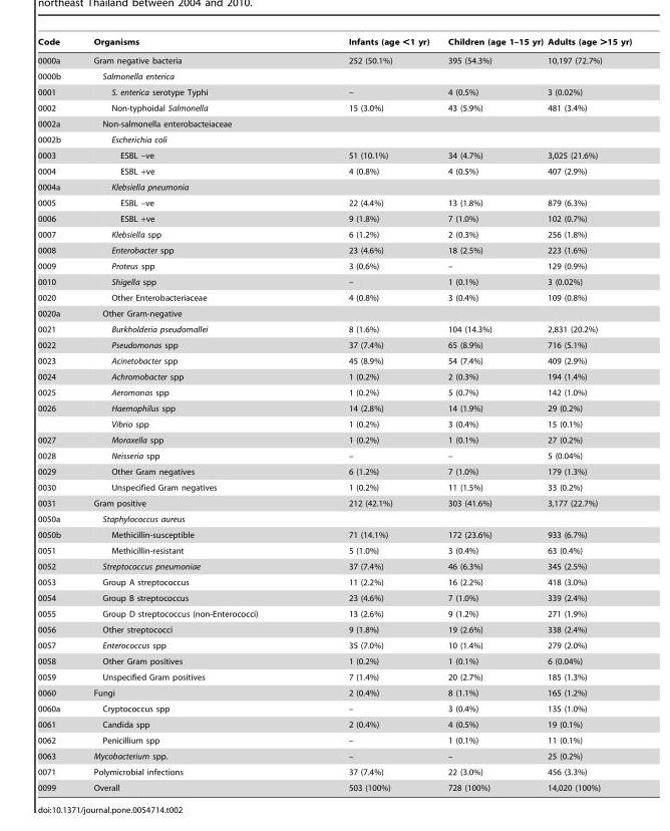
<table><thead><tr><td>Code</td><td>Organisms</td><td>Infants (age &lt;1 yr)</td><td>Children (age 1–15 yr)</td><td>Adults (age &gt;15 yr)</td></tr></thead><tbody><tr><td>0000a</td><td>Gram negative bacteria</td><td>252 (50.1%)</td><td>395 (54.3%)</td><td>10,197 (72.7%)</td></tr><tr><td>0000b</td><td>Salmonella enterica</td><td></td><td></td><td></td></tr><tr><td>0001</td><td>S. enterica serotype Typhi</td><td>–</td><td>4 (0.5%)</td><td>3 (0.02%)</td></tr><tr><td>0002</td><td>Non-typhoidal Salmonella</td><td>15 (3.0%)</td><td>43 (5.9%)</td><td>481 (3.4%)</td></tr><tr><td>0002a</td><td>Non-salmonella enterobacteiaceae</td><td></td><td></td><td></td></tr><tr><td>0002b</td><td>Escherichia coli</td><td></td><td></td><td></td></tr><tr><td>0003</td><td>ESBL –ve</td><td>51 (10.1%)</td><td>34 (4.7%)</td><td>3,025 (21.6%)</td></tr><tr><td>0004</td><td>ESBL +ve</td><td>4 (0.8%)</td><td>4 (0.5%)</td><td>407 (2.9%)</td></tr><tr><td>0004a</td><td>Klebsiella pneumonia</td><td></td><td></td><td></td></tr><tr><td>0005</td><td>ESBL –ve</td><td>22 (4.4%)</td><td>13 (1.8%)</td><td>879 (6.3%)</td></tr><tr><td>0006</td><td>ESBL +ve</td><td>9 (1.8%)</td><td>7 (1.0%)</td><td>102 (0.7%)</td></tr><tr><td>0007</td><td>Klebsiella spp</td><td>6 (1.2%)</td><td>2 (0.3%)</td><td>256 (1.8%)</td></tr><tr><td>0008</td><td>Enterobacter spp</td><td>23 (4.6%)</td><td>18 (2.5%)</td><td>223 (1.6%)</td></tr><tr><td>0009</td><td>Proteus spp</td><td>3 (0.6%)</td><td>–</td><td>129 (0.9%)</td></tr><tr><td>0010</td><td>Shigella spp</td><td>–</td><td>1 (0.1%)</td><td>3 (0.02%)</td></tr><tr><td>0020</td><td>Other Enterobacteriaceae</td><td>4 (0.8%)</td><td>3 (0.4%)</td><td>109 (0.8%)</td></tr><tr><td>0020a</td><td>Other Gram-negative</td><td></td><td></td><td></td></tr><tr><td>0021</td><td>Burkholderia pseudomallei</td><td>8 (1.6%)</td><td>104 (14.3%)</td><td>2,831 (20.2%)</td></tr><tr><td>0022</td><td>Pseudomonas spp</td><td>37 (7.4%)</td><td>65 (8.9%)</td><td>716 (5.1%)</td></tr><tr><td>0023</td><td>Acinetobacter spp</td><td>45 (8.9%)</td><td>54 (7.4%)</td><td>409 (2.9%)</td></tr><tr><td>0024</td><td>Achromobacter spp</td><td>1 (0.2%)</td><td>2 (0.3%)</td><td>194 (1.4%)</td></tr><tr><td>0025</td><td>Aeromonas spp</td><td>1 (0.2%)</td><td>5 (0.7%)</td><td>142 (1.0%)</td></tr><tr><td rowspan="2">0026</td><td>Haemophilus spp</td><td>14 (2.8%)</td><td>14 (1.9%)</td><td>29 (0.2%)</td></tr><tr><td>Vibrio spp</td><td>1 (0.2%)</td><td>3 (0.4%)</td><td>15 (0.1%)</td></tr><tr><td>0027</td><td>Moraxella spp</td><td>1 (0.2%)</td><td>1 (0.1%)</td><td>27 (0.2%)</td></tr><tr><td>0028</td><td>Neisseria spp</td><td>–</td><td>–</td><td>5 (0.04%)</td></tr><tr><td>0029</td><td>Other Gram negatives</td><td>6 (1.2%)</td><td>7 (1.0%)</td><td>179 (1.3%)</td></tr><tr><td>0030</td><td>Unspecified Gram negatives</td><td>1 (0.2%)</td><td>11 (1.5%)</td><td>33 (0.2%)</td></tr><tr><td>0031</td><td>Gram positive</td><td>212 (42.1%)</td><td>303 (41.6%)</td><td>3,177 (22.7%)</td></tr><tr><td>0050a</td><td>Staphylococcus aureus</td><td></td><td></td><td></td></tr><tr><td>0050b</td><td>Methicillin-susceptible</td><td>71 (14.1%)</td><td>172 (23.6%)</td><td>933 (6.7%)</td></tr><tr><td>0051</td><td>Methicillin-resistant</td><td>5 (1.0%)</td><td>3 (0.4%)</td><td>63 (0.4%)</td></tr><tr><td>0052</td><td>Streptococcus pneumoniae</td><td>37 (7.4%)</td><td>46 (6.3%)</td><td>345 (2.5%)</td></tr><tr><td>0053</td><td>Group A streptococcus</td><td>11 (2.2%)</td><td>16 (2.2%)</td><td>418 (3.0%)</td></tr><tr><td>0054</td><td>Group B streptococcus</td><td>23 (4.6%)</td><td>7 (1.0%)</td><td>339 (2.4%)</td></tr><tr><td>0055</td><td>Group D streptococcus (non-Enterococci)</td><td>13 (2.6%)</td><td>9 (1.2%)</td><td>271 (1.9%)</td></tr><tr><td>0056</td><td>Other streptococci</td><td>9 (1.8%)</td><td>19 (2.6%)</td><td>338 (2.4%)</td></tr><tr><td>0057</td><td>Enterococcus spp</td><td>35 (7.0%)</td><td>10 (1.4%)</td><td>279 (2.0%)</td></tr><tr><td>0058</td><td>Other Gram positives</td><td>1 (0.2%)</td><td>1 (0.1%)</td><td>6 (0.04%)</td></tr><tr><td>0059</td><td>Unspecified Gram positives</td><td>7 (1.4%)</td><td>20 (2.7%)</td><td>185 (1.3%)</td></tr><tr><td>0060</td><td>Fungi</td><td>2 (0.4%)</td><td>8 (1.1%)</td><td>165 (1.2%)</td></tr><tr><td>0060a</td><td>Cryptococcus spp</td><td>–</td><td>3 (0.4%)</td><td>135 (1.0%)</td></tr><tr><td>0061</td><td>Candida spp</td><td>2 (0.4%)</td><td>4 (0.5%)</td><td>19 (0.1%)</td></tr><tr><td>0062</td><td>Penicillium spp</td><td>–</td><td>1 (0.1%)</td><td>11 (0.1%)</td></tr><tr><td>0063</td><td>Mycobacterium spp.</td><td>–</td><td>–</td><td>25 (0.2%)</td></tr><tr><td>0071</td><td>Polymicrobial infections</td><td>37 (7.4%)</td><td>22 (3.0%)</td><td>456 (3.3%)</td></tr><tr><td>0099</td><td>Overall</td><td>503 (100%)</td><td>728 (100%)</td><td>14,020 (100%)</td></tr></tbody></table>